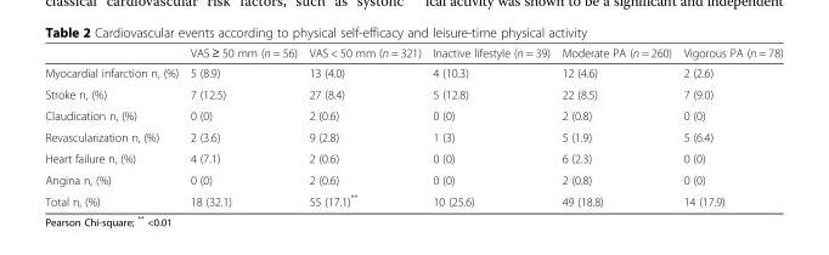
<table><thead><tr><td></td><td>VAS ≥ 50 mm (n = 56)</td><td>VAS &lt; 50 mm (n = 321)</td><td>Inactive lifestyle (n = 39)</td><td>Moderate PA (n = 260)</td><td>Vigorous PA (n = 78)</td></tr></thead><tbody><tr><td>Myocardial infarction n, (%)</td><td>5 (8.9)</td><td>13 (4.0)</td><td>4 (10.3)</td><td>12 (4.6)</td><td>2 (2.6)</td></tr><tr><td>Stroke n, (%)</td><td>7 (12.5)</td><td>27 (8.4)</td><td>5 (12.8)</td><td>22 (8.5)</td><td>7 (9.0)</td></tr><tr><td>Claudication n, (%)</td><td>0 (0)</td><td>2 (0.6)</td><td>0 (0)</td><td>2 (0.8)</td><td>0 (0)</td></tr><tr><td>Revascularization n, (%)</td><td>2 (3.6)</td><td>9 (2.8)</td><td>1 (3)</td><td>5 (1.9)</td><td>5 (6.4)</td></tr><tr><td>Heart failure n, (%)</td><td>4 (7.1)</td><td>2 (0.6)</td><td>0 (0)</td><td>6 (2.3)</td><td>0 (0)</td></tr><tr><td>Angina n, (%)</td><td>0 (0)</td><td>2 (0.6)</td><td>0 (0)</td><td>2 (0.8)</td><td>0 (0)</td></tr><tr><td>Total n, (%)</td><td>18 (32.1)</td><td>55 (17.1)**</td><td>10 (25.6)</td><td>49 (18.8)</td><td>14 (17.9)</td></tr></tbody></table>